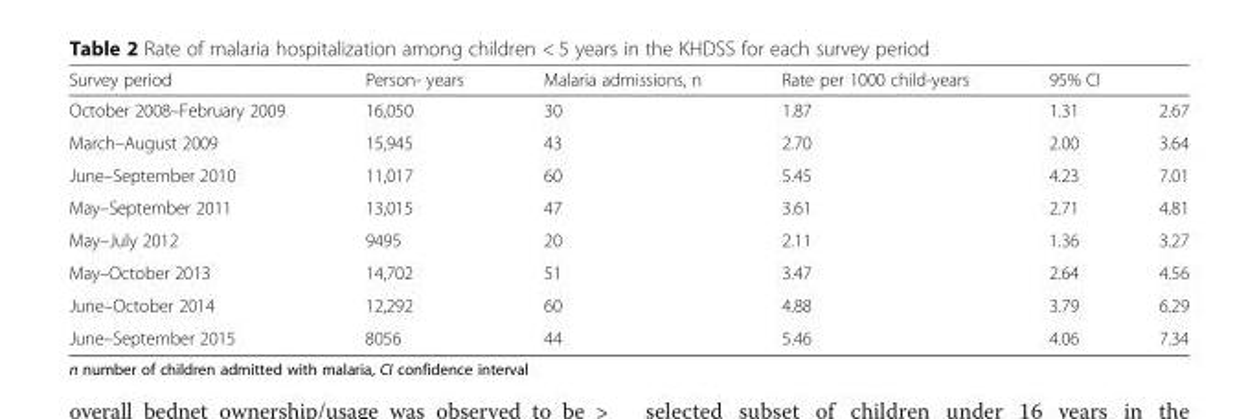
<table><thead><tr><td rowspan="2">Survey period October 2008–February 2009</td><td rowspan="2">Person- years 16,050</td><td rowspan="2">Malaria admissions, n 30</td><td rowspan="2">Rate per 1000 child-years 1.87</td><td colspan="2">95% CI</td></tr><tr><td>1.31</td><td>2.67</td></tr></thead><tbody><tr><td>March–August 2009</td><td>15,945</td><td>43</td><td>2.70</td><td>2.00</td><td>3.64</td></tr><tr><td>June–September 2010</td><td>11,017</td><td>60</td><td>5.45</td><td>4.23</td><td>7.01</td></tr><tr><td>May–September 2011</td><td>13,015</td><td>47</td><td>3.61</td><td>2.71</td><td>4.81</td></tr><tr><td>May–July 2012</td><td>9495</td><td>20</td><td>2.11</td><td>1.36</td><td>3.27</td></tr><tr><td>May–October 2013</td><td>14,702</td><td>51</td><td>3.47</td><td>2.64</td><td>4.56</td></tr><tr><td>June–October 2014</td><td>12,292</td><td>60</td><td>4.88</td><td>3.79</td><td>6.29</td></tr><tr><td>June–September 2015</td><td>8056</td><td>44</td><td>5.46</td><td>4.06</td><td>7.34</td></tr></tbody></table>